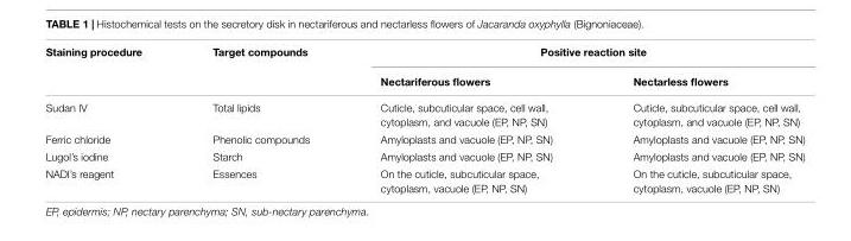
<table><thead><tr><td rowspan="2">Staining procedure</td><td rowspan="2">Target compounds</td><td colspan="2">Positive reaction site</td></tr><tr><td>Nectariferous flowers</td><td>Nectarless flowers</td></tr></thead><tbody><tr><td>Sudan IV</td><td>Total lipids</td><td>Cuticle, subcuticular space, cell wall, cytoplasm, and vacuole (EP, NP, SN)</td><td>Cuticle, subcuticular space, cell wall, cytoplasm, and vacuole (EP, NP, SN)</td></tr><tr><td>Ferric chloride</td><td>Phenolic compounds</td><td>Amyloplasts and vacuole (EP, NP, SN)</td><td>Amyloplasts and vacuole (EP, NP, SN)</td></tr><tr><td>Lugol’s iodine</td><td>Starch</td><td>Amyloplasts and vacuole (EP, NP, SN)</td><td>Amyloplasts and vacuole (EP, NP, SN)</td></tr><tr><td>NADI’s reagent</td><td>Essences</td><td>On the cuticle, subcuticular space, cytoplasm, vacuole (EP, NP, SN)</td><td>On the cuticle, subcuticular space, cytoplasm, vacuole (EP, NP, SN)</td></tr></tbody></table>